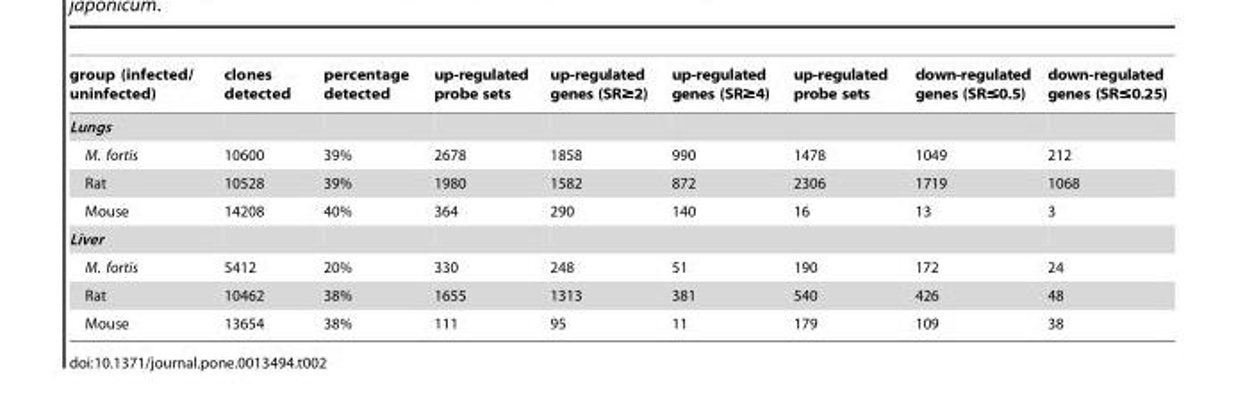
<table><thead><tr><td>group (infected/ uninfected)</td><td>clones detected</td><td>percentage detected</td><td>up-regulated probe sets</td><td>up-regulated genes (SR≥2)</td><td>up-regulated genes (SR≥4)</td><td>up-regulated probe sets</td><td>down-regulated genes (SR≤0.5)</td><td>down-regulated genes (SR≤0.25)</td></tr></thead><tbody><tr><td colspan="9">Lungs</td></tr><tr><td>M. fortis</td><td>10600</td><td>39%</td><td>2678</td><td>1858</td><td>990</td><td>1478</td><td>1049</td><td>212</td></tr><tr><td>Rat</td><td>10528</td><td>39%</td><td>1980</td><td>1582</td><td>872</td><td>2306</td><td>1719</td><td>1068</td></tr><tr><td>Mouse</td><td>14208</td><td>40%</td><td>364</td><td>290</td><td>140</td><td>16</td><td>13</td><td>3</td></tr><tr><td colspan="9">Liver</td></tr><tr><td>M. fortis</td><td>5412</td><td>20%</td><td>330</td><td>248</td><td>51</td><td>190</td><td>172</td><td>24</td></tr><tr><td>Rat</td><td>10462</td><td>38%</td><td>1655</td><td>1313</td><td>381</td><td>540</td><td>426</td><td>48</td></tr><tr><td>Mouse</td><td>13654</td><td>38%</td><td>111</td><td>95</td><td>11</td><td>179</td><td>109</td><td>38</td></tr></tbody></table>